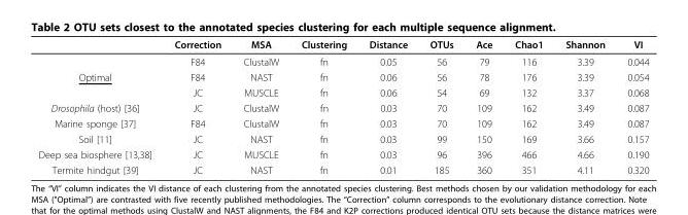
<table><thead><tr><td></td><td>Correction</td><td>MSA</td><td>Clustering</td><td>Distance</td><td>OTUs</td><td>Ace</td><td>Chao1</td><td>Shannon</td><td>VI</td></tr></thead><tbody><tr><td></td><td>F84</td><td>ClustalW</td><td>fn</td><td>0.05</td><td>56</td><td>79</td><td>116</td><td>3.39</td><td>0.044</td></tr><tr><td rowspan="2">Optimal</td><td>F84</td><td>NAST</td><td>fn</td><td>0.06</td><td>56</td><td>78</td><td>176</td><td>3.39</td><td>0.054</td></tr><tr><td>JC</td><td>MUSCLE</td><td>fn</td><td>0.06</td><td>54</td><td>69</td><td>132</td><td>3.37</td><td>0.068</td></tr><tr><td>Drosophila (host) [36]</td><td>JC</td><td>ClustalW</td><td>fn</td><td>0.03</td><td>70</td><td>109</td><td>162</td><td>3.49</td><td>0.087</td></tr><tr><td>Marine sponge [37]</td><td>F84</td><td>ClustalW</td><td>fn</td><td>0.03</td><td>70</td><td>109</td><td>162</td><td>3.49</td><td>0.087</td></tr><tr><td>Soil [11]</td><td>JC</td><td>NAST</td><td>fn</td><td>0.03</td><td>99</td><td>150</td><td>169</td><td>3.66</td><td>0.157</td></tr><tr><td>Deep sea biosphere [13,38]</td><td>JC</td><td>MUSCLE</td><td>fn</td><td>0.03</td><td>96</td><td>396</td><td>466</td><td>4.66</td><td>0.190</td></tr><tr><td>Termite hindgut [39]</td><td>JC</td><td>NAST</td><td>fn</td><td>0.01</td><td>185</td><td>360</td><td>351</td><td>4.11</td><td>0.320</td></tr></tbody></table>